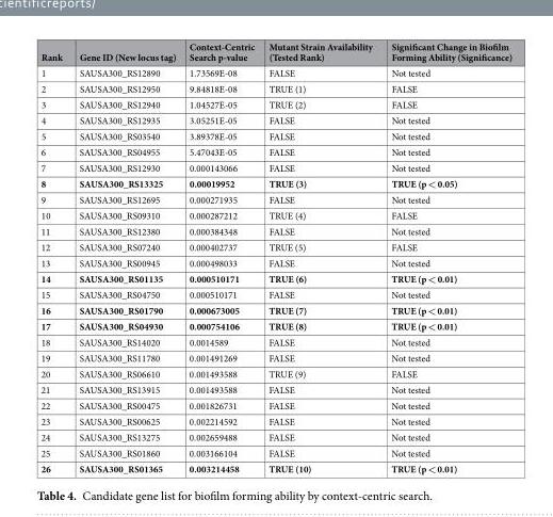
<table><thead><tr><td>Rank</td><td>Gene ID (New locus tag)</td><td>Context-Centric Search p-value</td><td>Mutant Strain Availability (Tested Rank)</td><td>Significant Change in Biofilm Forming Ability (Significance)</td></tr></thead><tbody><tr><td>1</td><td>SAUSA300_RS12890</td><td>1.73569E-08</td><td>FALSE</td><td>Not tested</td></tr><tr><td>2</td><td>SAUSA300_RS12950</td><td>9.84818E-08</td><td>TRUE (1)</td><td>FALSE</td></tr><tr><td>3</td><td>SAUSA300_RS12940</td><td>1.04527E-05</td><td>TRUE (2)</td><td>FALSE</td></tr><tr><td>4</td><td>SAUSA300_RS12935</td><td>3.05251E-05</td><td>FALSE</td><td>Not tested</td></tr><tr><td>5</td><td>SAUSA300_RS03540</td><td>3.89378E-05</td><td>FALSE</td><td>Not tested</td></tr><tr><td>6</td><td>SAUSA300_RS04955</td><td>5.47043E-05</td><td>FALSE</td><td>Not tested</td></tr><tr><td>7</td><td>SAUSA300_RS12930</td><td>0.000143066</td><td>FALSE</td><td>Not tested</td></tr><tr><td>8</td><td>SAUSA300_RS13325</td><td>0.00019952</td><td>TRUE (3)</td><td>TRUE (p &lt; 0.05)</td></tr><tr><td>9</td><td>SAUSA300_RS12695</td><td>0.000271935</td><td>FALSE</td><td>Not tested</td></tr><tr><td>10</td><td>SAUSA300_RS09310</td><td>0.000287212</td><td>TRUE (4)</td><td>FALSE</td></tr><tr><td>11</td><td>SAUSA300_RS12380</td><td>0.000384348</td><td>FALSE</td><td>Not tested</td></tr><tr><td>12</td><td>SAUSA300_RS07240</td><td>0.000402737</td><td>TRUE (5)</td><td>FALSE</td></tr><tr><td>13</td><td>SAUSA300_RS00945</td><td>0.000498033</td><td>FALSE</td><td>Not tested</td></tr><tr><td>14</td><td>SAUSA300_RS01135</td><td>0.000510171</td><td>TRUE (6)</td><td>TRUE (p &lt; 0.01)</td></tr><tr><td>15</td><td>SAUSA300_RS04750</td><td>0.000510171</td><td>FALSE</td><td>Not tested</td></tr><tr><td>16</td><td>SAUSA300_RS01790</td><td>0.000673005</td><td>TRUE (7)</td><td>TRUE (p &lt; 0.01)</td></tr><tr><td>17</td><td>SAUSA300_RS04930</td><td>0.000754106</td><td>TRUE (8)</td><td>TRUE (p &lt; 0.01)</td></tr><tr><td>18</td><td>SAUSA300_RS14020</td><td>0.0014589</td><td>FALSE</td><td>Not tested</td></tr><tr><td>19</td><td>SAUSA300_RS11780</td><td>0.001491269</td><td>FALSE</td><td>Not tested</td></tr><tr><td>20</td><td>SAUSA300_RS06610</td><td>0.001493588</td><td>TRUE (9)</td><td>FALSE</td></tr><tr><td>21</td><td>SAUSA300_RS13915</td><td>0.001493588</td><td>FALSE</td><td>Not tested</td></tr><tr><td>22</td><td>SAUSA300_RS00475</td><td>0.001826731</td><td>FALSE</td><td>Not tested</td></tr><tr><td>23</td><td>SAUSA300_RS00625</td><td>0.002214592</td><td>FALSE</td><td>Not tested</td></tr><tr><td>24</td><td>SAUSA300_RS13275</td><td>0.002659488</td><td>FALSE</td><td>Not tested</td></tr><tr><td>25</td><td>SAUSA300_RS01860</td><td>0.003166104</td><td>FALSE</td><td>Not tested</td></tr><tr><td>26</td><td>SAUSA300_RS01365</td><td>0.003214458</td><td>TRUE (10)</td><td>TRUE (p &lt; 0.01)</td></tr></tbody></table>